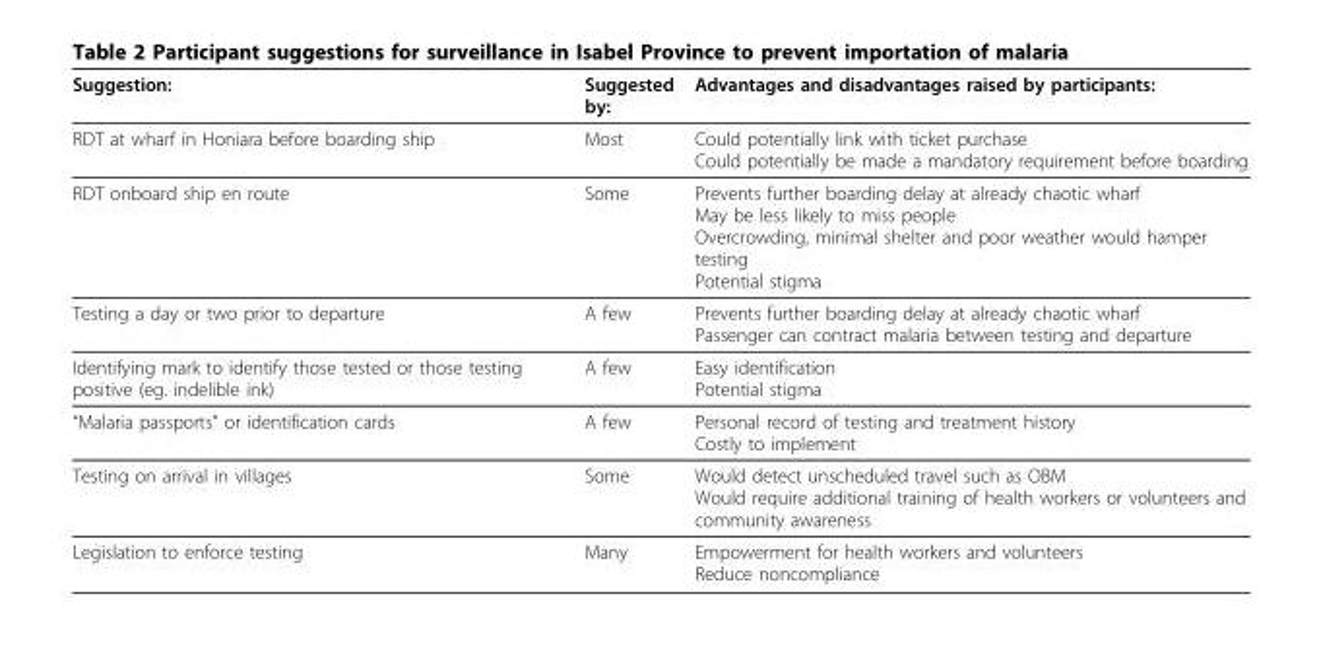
<table><thead><tr><td>Suggestion:</td><td>Suggested by:</td><td>Advantages and disadvantages raised by participants:</td></tr></thead><tbody><tr><td>RDT at wharf in Honiara before boarding ship</td><td>Most</td><td>Could potentially link with ticket purchase Could potentially be made a mandatory requirement before boarding</td></tr><tr><td>RDT onboard ship en route</td><td>Some</td><td>Prevents further boarding delay at already chaotic wharf May be less likely to miss people Overcrowding, minimal shelter and poor weather would hamper testing Potential stigma</td></tr><tr><td>Testing a day or two prior to departure</td><td>A few</td><td>Prevents further boarding delay at already chaotic wharf Passenger can contract malaria between testing and departure</td></tr><tr><td>Identifying mark to identify those tested or those testing positive (eg. indelible ink)</td><td>A few</td><td>Easy identification Potential stigma</td></tr><tr><td>“Malaria passports” or identification cards</td><td>A few</td><td>Personal record of testing and treatment history Costly to implement</td></tr><tr><td>Testing on arrival in villages</td><td>Some</td><td>Would detect unscheduled travel such as OBM Would require additional training of health workers or volunteers and community awareness</td></tr><tr><td>Legislation to enforce testing</td><td>Many</td><td>Empowerment for health workers and volunteers Reduce noncompliance</td></tr></tbody></table>